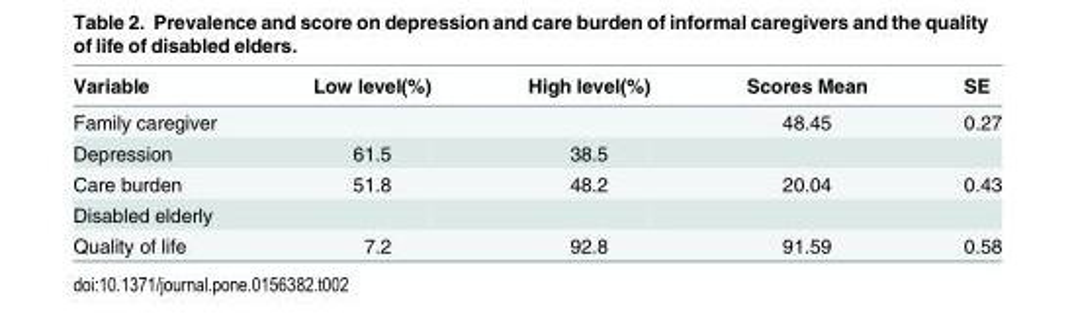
<table><thead><tr><td>Variable</td><td>Low level(%)</td><td>High level(%)</td><td>Scores Mean</td><td>SE</td></tr></thead><tbody><tr><td>Family caregiver</td><td></td><td></td><td>48.45</td><td>0.27</td></tr><tr><td>Depression</td><td>61.5</td><td>38.5</td><td></td><td></td></tr><tr><td>Care burden</td><td>51.8</td><td>48.2</td><td>20.04</td><td>0.43</td></tr><tr><td colspan="5">Disabled elderly</td></tr><tr><td>Quality of life</td><td>7.2</td><td>92.8</td><td>91.59</td><td>0.58</td></tr></tbody></table>